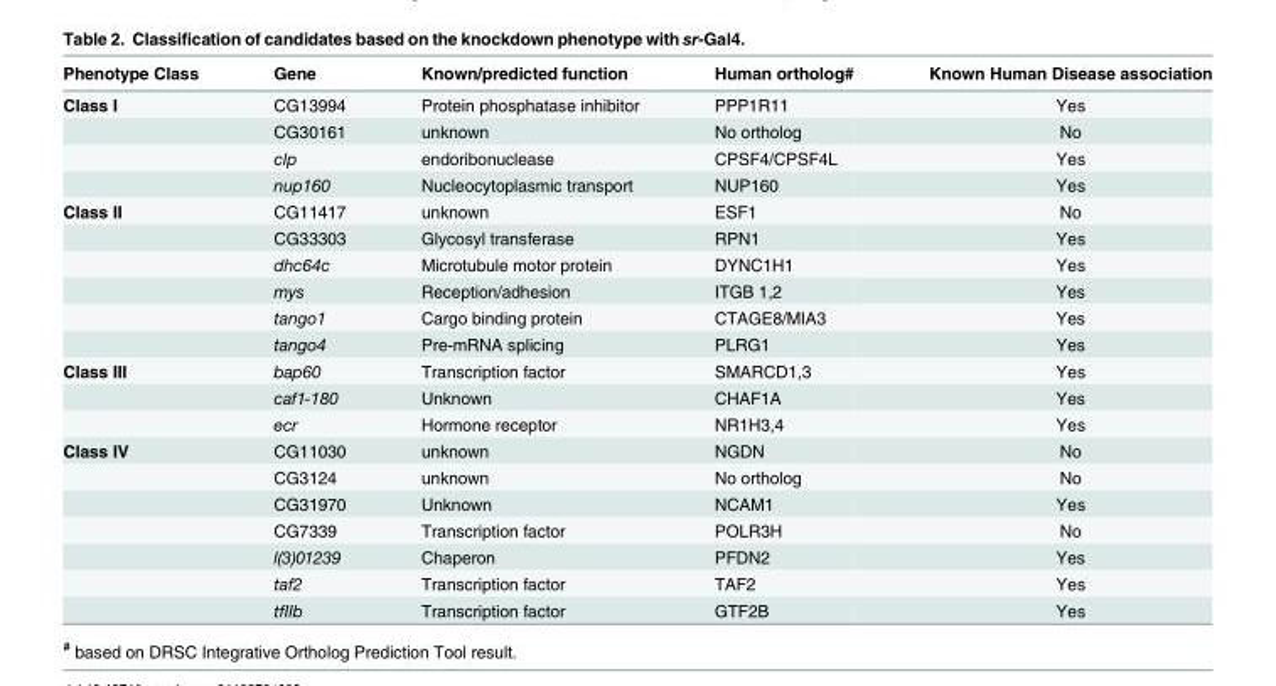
<table><thead><tr><td>Phenotype Class</td><td>Gene</td><td>Known/predicted function</td><td>Human ortholog#</td><td>Known Human Disease association</td></tr></thead><tbody><tr><td rowspan="4">Class I</td><td>CG13994</td><td>Protein phosphatase inhibitor</td><td>PPP1R11</td><td>Yes</td></tr><tr><td>CG30161</td><td>unknown</td><td>No ortholog</td><td>No</td></tr><tr><td>clp</td><td>endoribonuclease</td><td>CPSF4/CPSF4L</td><td>Yes</td></tr><tr><td>nup160</td><td>Nucleocytoplasmic transport</td><td>NUP160</td><td>Yes</td></tr><tr><td rowspan="6">Class II</td><td>CG11417</td><td>unknown</td><td>ESF1</td><td>No</td></tr><tr><td>CG33303</td><td>Glycosyl transferase</td><td>RPN1</td><td>Yes</td></tr><tr><td>dhc64c</td><td>Microtubule motor protein</td><td>DYNC1H1</td><td>Yes</td></tr><tr><td>mys</td><td>Reception/adhesion</td><td>ITGB 1,2</td><td>Yes</td></tr><tr><td>tango1</td><td>Cargo binding protein</td><td>CTAGE8/MIA3</td><td>Yes</td></tr><tr><td>tango4</td><td>Pre-mRNA splicing</td><td>PLRG1</td><td>Yes</td></tr><tr><td rowspan="3">Class III</td><td>bap60</td><td>Transcription factor</td><td>SMARCD1,3</td><td>Yes</td></tr><tr><td>caf1-180</td><td>Unknown</td><td>CHAF1A</td><td>Yes</td></tr><tr><td>ecr</td><td>Hormone receptor</td><td>NR1H3,4</td><td>Yes</td></tr><tr><td rowspan="7">Class IV</td><td>CG11030</td><td>unknown</td><td>NGDN</td><td>No</td></tr><tr><td>CG3124</td><td>unknown</td><td>No ortholog</td><td>No</td></tr><tr><td>CG31970</td><td>Unknown</td><td>NCAM1</td><td>Yes</td></tr><tr><td>CG7339</td><td>Transcription factor</td><td>POLR3H</td><td>No</td></tr><tr><td>l(3)01239</td><td>Chaperon</td><td>PFDN2</td><td>Yes</td></tr><tr><td>taf2</td><td>Transcription factor</td><td>TAF2</td><td>Yes</td></tr><tr><td>tfIIb</td><td>Transcription factor</td><td>GTF2B</td><td>Yes</td></tr></tbody></table>